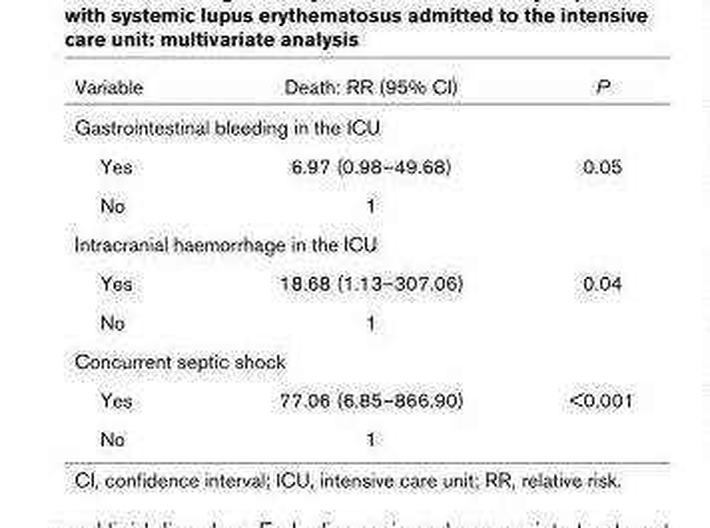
<table><thead><tr><td>Variable</td><td>Death: RR (95% CI)</td><td>P</td></tr></thead><tbody><tr><td colspan="3">Gastrointestinal bleeding in the ICU</td></tr><tr><td>Yes</td><td>6.97 (0.98–49.68)</td><td>0.05</td></tr><tr><td>No</td><td>1</td><td></td></tr><tr><td colspan="3">Intracranial haemorrhage in the ICU</td></tr><tr><td>Yes</td><td>18.68 (1.13–307.06)</td><td>0.04</td></tr><tr><td>No</td><td>1</td><td></td></tr><tr><td colspan="3">Concurrent septic shock</td></tr><tr><td>Yes</td><td>77.06 (6.85–866.90)</td><td>&lt;0.001</td></tr><tr><td>No</td><td>1</td><td></td></tr></tbody></table>